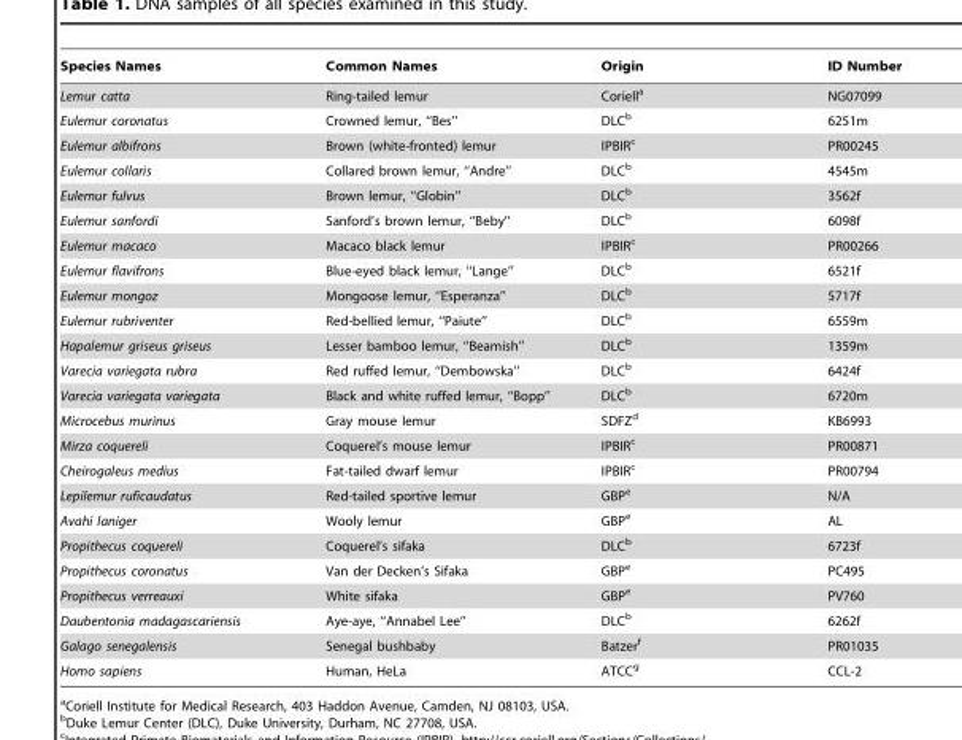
<table><thead><tr><td>Species Names</td><td>Common Names</td><td>Origin</td><td>ID Number</td></tr></thead><tbody><tr><td>Lemur catta</td><td>Ring-tailed lemur</td><td>Coriell<sup>a</sup></td><td>NG07099</td></tr><tr><td>Eulemur coronatus</td><td>Crowned lemur, ‘‘Bes’’</td><td>DLC<sup>b</sup></td><td>6251m</td></tr><tr><td>Eulemur albifrons</td><td>Brown (white-fronted) lemur</td><td>IPBIR<sup>c</sup></td><td>PR00245</td></tr><tr><td>Eulemur collaris</td><td>Collared brown lemur, ‘‘Andre’’</td><td>DLC<sup>b</sup></td><td>4545m</td></tr><tr><td>Eulemur fulvus</td><td>Brown lemur, ‘‘Globin’’</td><td>DLC<sup>b</sup></td><td>3562f</td></tr><tr><td>Eulemur sanfordi</td><td>Sanford’s brown lemur, ‘‘Beby’’</td><td>DLC<sup>b</sup></td><td>6098f</td></tr><tr><td>Eulemur macaco</td><td>Macaco black lemur</td><td>IPBIR<sup>c</sup></td><td>PR00266</td></tr><tr><td>Eulemur flavifrons</td><td>Blue-eyed black lemur, ‘‘Lange’’</td><td>DLC<sup>b</sup></td><td>6521f</td></tr><tr><td>Eulemur mongoz</td><td>Mongoose lemur, ‘‘Esperanza’’</td><td>DLC<sup>b</sup></td><td>5717f</td></tr><tr><td>Eulemur rubriventer</td><td>Red-bellied lemur, ‘‘Paiute’’</td><td>DLC<sup>b</sup></td><td>6559m</td></tr><tr><td>Hapalemur griseus griseus</td><td>Lesser bamboo lemur, ‘‘Beamish’’</td><td>DLC<sup>b</sup></td><td>1359m</td></tr><tr><td>Varecia variegata rubra</td><td>Red ruffed lemur, ‘‘Dembowska’’</td><td>DLC<sup>b</sup></td><td>6424f</td></tr><tr><td>Varecia variegata variegata</td><td>Black and white ruffed lemur, ‘‘Bopp’’</td><td>DLC<sup>b</sup></td><td>6720m</td></tr><tr><td>Microcebus murinus</td><td>Gray mouse lemur</td><td>SDFZ<sup>d</sup></td><td>KB6993</td></tr><tr><td>Mirza coquereli</td><td>Coquerel’s mouse lemur</td><td>IPBIR<sup>c</sup></td><td>PR00871</td></tr><tr><td>Cheirogaleus medius</td><td>Fat-tailed dwarf lemur</td><td>IPBIR<sup>c</sup></td><td>PR00794</td></tr><tr><td>Lepilemur ruficaudatus</td><td>Red-tailed sportive lemur</td><td>GBP<sup>e</sup></td><td>N/A</td></tr><tr><td>Avahi laniger</td><td>Wooly lemur</td><td>GBP<sup>e</sup></td><td>AL</td></tr><tr><td>Propithecus coquereli</td><td>Coquerel’s sifaka</td><td>DLC<sup>b</sup></td><td>6723f</td></tr><tr><td>Propithecus coronatus</td><td>Van der Decken’s Sifaka</td><td>GBP<sup>e</sup></td><td>PC495</td></tr><tr><td>Propithecus verreauxi</td><td>White sifaka</td><td>GBP<sup>e</sup></td><td>PV760</td></tr><tr><td>Daubentonia madagascariensis</td><td>Aye-aye, ‘‘Annabel Lee’’</td><td>DLC<sup>b</sup></td><td>6262f</td></tr><tr><td>Galago senegalensis</td><td>Senegal bushbaby</td><td>Batzer<sup>f</sup></td><td>PR01035</td></tr><tr><td>Homo sapiens</td><td>Human, HeLa</td><td>ATCC<sup>g</sup></td><td>CCL-2</td></tr></tbody></table>